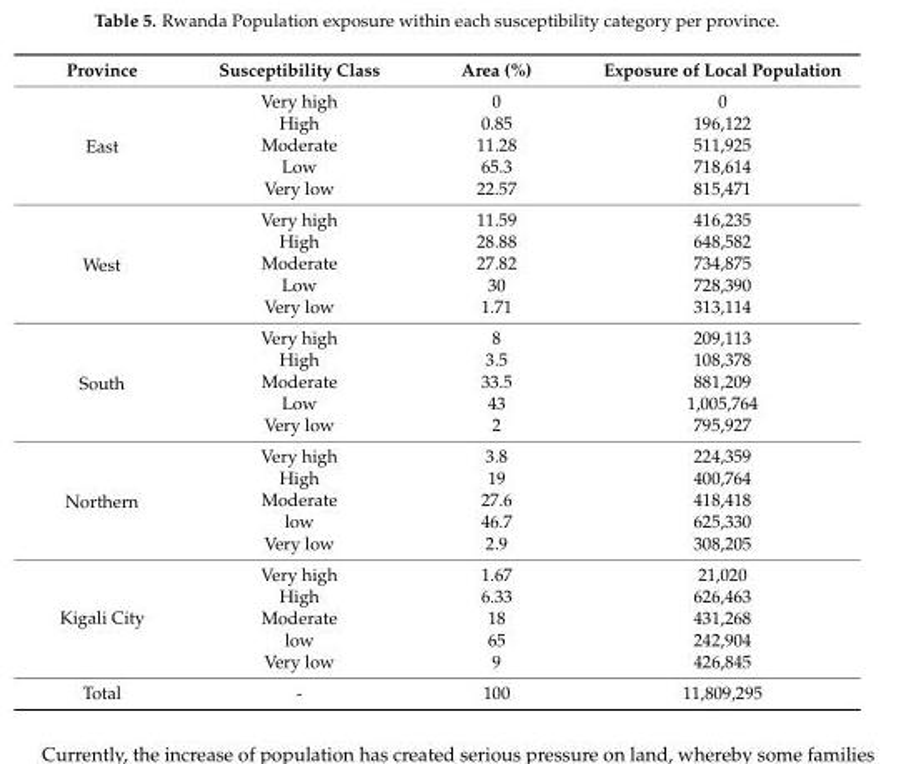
<table><thead><tr><td>Province</td><td>Susceptibility Class</td><td>Area (%)</td><td>Exposure of Local Population</td></tr></thead><tbody><tr><td rowspan="5">East</td><td>Very high</td><td>0</td><td>0</td></tr><tr><td>High</td><td>0.85</td><td>196,122</td></tr><tr><td>Moderate</td><td>11.28</td><td>511,925</td></tr><tr><td>Low</td><td>65.3</td><td>718,614</td></tr><tr><td>Very low</td><td>22.57</td><td>815,471</td></tr><tr><td rowspan="5">West</td><td>Very high</td><td>11.59</td><td>416,235</td></tr><tr><td>High</td><td>28.88</td><td>648,582</td></tr><tr><td>Moderate</td><td>27.82</td><td>734,875</td></tr><tr><td>Low</td><td>30</td><td>728,390</td></tr><tr><td>Very low</td><td>1.71</td><td>313,114</td></tr><tr><td rowspan="5">South</td><td>Very high</td><td>8</td><td>209,113</td></tr><tr><td>High</td><td>3.5</td><td>108,378</td></tr><tr><td>Moderate</td><td>33.5</td><td>881,209</td></tr><tr><td>Low</td><td>43</td><td>1,005,764</td></tr><tr><td>Very low</td><td>2</td><td>795,927</td></tr><tr><td rowspan="5">Northern</td><td>Very high</td><td>3.8</td><td>224,359</td></tr><tr><td>High</td><td>19</td><td>400,764</td></tr><tr><td>Moderate</td><td>27.6</td><td>418,418</td></tr><tr><td>low</td><td>46.7</td><td>625,330</td></tr><tr><td>Very low</td><td>2.9</td><td>308,205</td></tr><tr><td rowspan="5">Kigali City</td><td>Very high</td><td>1.67</td><td>21,020</td></tr><tr><td>High</td><td>6.33</td><td>626,463</td></tr><tr><td>Moderate</td><td>18</td><td>431,268</td></tr><tr><td>low</td><td>65</td><td>242,904</td></tr><tr><td>Very low</td><td>9</td><td>426,845</td></tr><tr><td>Total</td><td>-</td><td>100</td><td>11,809,295</td></tr></tbody></table>